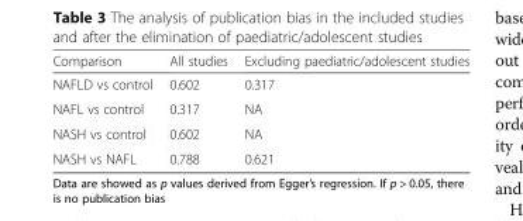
<table><thead><tr><td>Comparison</td><td>All studies</td><td>Excluding paediatric/adolescent studies</td></tr></thead><tbody><tr><td>NAFLD vs control</td><td>0.602</td><td>0.317</td></tr><tr><td>NAFL vs control</td><td>0.317</td><td>NA</td></tr><tr><td>NASH vs control</td><td>0.602</td><td>NA</td></tr><tr><td>NASH vs NAFL</td><td>0.788</td><td>0.621</td></tr></tbody></table>